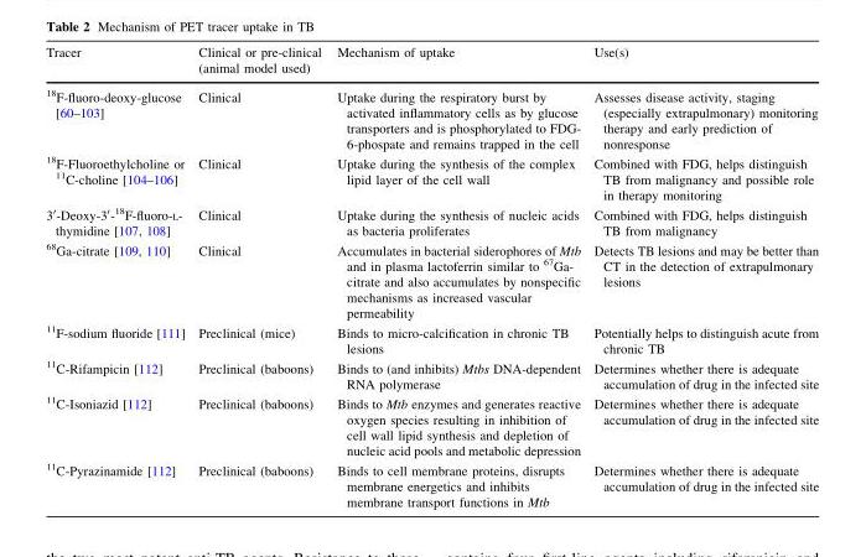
<table><thead><tr><td>Tracer</td><td>Clinical or pre-clinical (animal model used)</td><td>Mechanism of uptake</td><td>Use(s)</td></tr></thead><tbody><tr><td><sup>18</sup>F-fluoro-deoxy-glucose [60–103]</td><td>Clinical</td><td>Uptake during the respiratory burst by activated inflammatory cells as by glucose transporters and is phosphorylated to FDG- 6-phospate and remains trapped in the cell</td><td>Assesses disease activity, staging (especially extrapulmonary) monitoring therapy and early prediction of nonresponse</td></tr><tr><td><sup>18</sup>F-Fluoroethylcholine or <sup>11</sup>C-choline [104–106]</td><td>Clinical</td><td>Uptake during the synthesis of the complex lipid layer of the cell wall</td><td>Combined with FDG, helps distinguish TB from malignancy and possible role in therapy monitoring</td></tr><tr><td>3′-Deoxy-3′-<sup>18</sup>F-fluoro-L- thymidine [107, 108]</td><td>Clinical</td><td>Uptake during the synthesis of nucleic acids as bacteria proliferates</td><td>Combined with FDG, helps distinguish TB from malignancy</td></tr><tr><td><sup>68</sup>Ga-citrate [109, 110]</td><td>Clinical</td><td>Accumulates in bacterial siderophores of Mtb and in plasma lactoferrin similar to <sup>67</sup>Ga- citrate and also accumulates by nonspecific mechanisms as increased vascular permeability</td><td>Detects TB lesions and may be better than CT in the detection of extrapulmonary lesions</td></tr><tr><td><sup>11</sup>F-sodium fluoride [111]</td><td>Preclinical (mice)</td><td>Binds to micro-calcification in chronic TB lesions</td><td>Potentially helps to distinguish acute from chronic TB</td></tr><tr><td><sup>11</sup>C-Rifampicin [112]</td><td>Preclinical (baboons)</td><td>Binds to (and inhibits) Mtbs DNA-dependent RNA polymerase</td><td>Determines whether there is adequate accumulation of drug in the infected site</td></tr><tr><td><sup>11</sup>C-Isoniazid [112]</td><td>Preclinical (baboons)</td><td>Binds to Mtb enzymes and generates reactive oxygen species resulting in inhibition of cell wall lipid synthesis and depletion of nucleic acid pools and metabolic depression</td><td>Determines whether there is adequate accumulation of drug in the infected site</td></tr><tr><td><sup>11</sup>C-Pyrazinamide [112]</td><td>Preclinical (baboons)</td><td>Binds to cell membrane proteins, disrupts membrane energetics and inhibits membrane transport functions in Mtb</td><td>Determines whether there is adequate accumulation of drug in the infected site</td></tr></tbody></table>